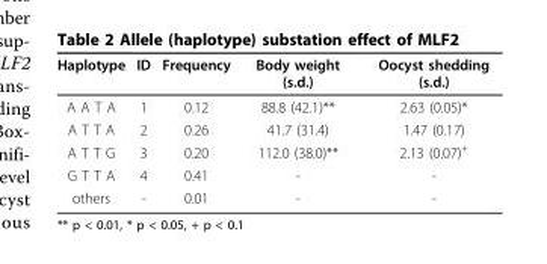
<table><thead><tr><td>Haplotype</td><td>ID</td><td>Frequency</td><td>Body weight (s.d.)</td><td>Oocyst shedding (s.d.)</td></tr></thead><tbody><tr><td>A A T A</td><td>1</td><td>0.12</td><td>88.8 (42.1)**</td><td>2.63 (0.05)*</td></tr><tr><td>A T T A</td><td>2</td><td>0.26</td><td>41.7 (31.4)</td><td>1.47 (0.17)</td></tr><tr><td>A T T G</td><td>3</td><td>0.20</td><td>112.0 (38.0)**</td><td>2.13 (0.07)<sup>+</sup></td></tr><tr><td>G T T A</td><td>4</td><td>0.41</td><td>-</td><td>-</td></tr><tr><td>others</td><td>-</td><td>0.01</td><td>-</td><td>-</td></tr></tbody></table>